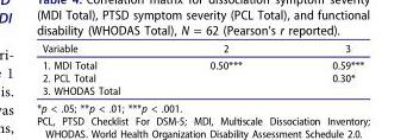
<table><thead><tr><td>Variable</td><td>2</td><td>3</td></tr></thead><tbody><tr><td>1. MDI Total</td><td>0.50***</td><td>0.59***</td></tr><tr><td>2. PCL Total</td><td></td><td>0.30*</td></tr><tr><td>3. WHODAS Total</td><td></td><td></td></tr></tbody></table>